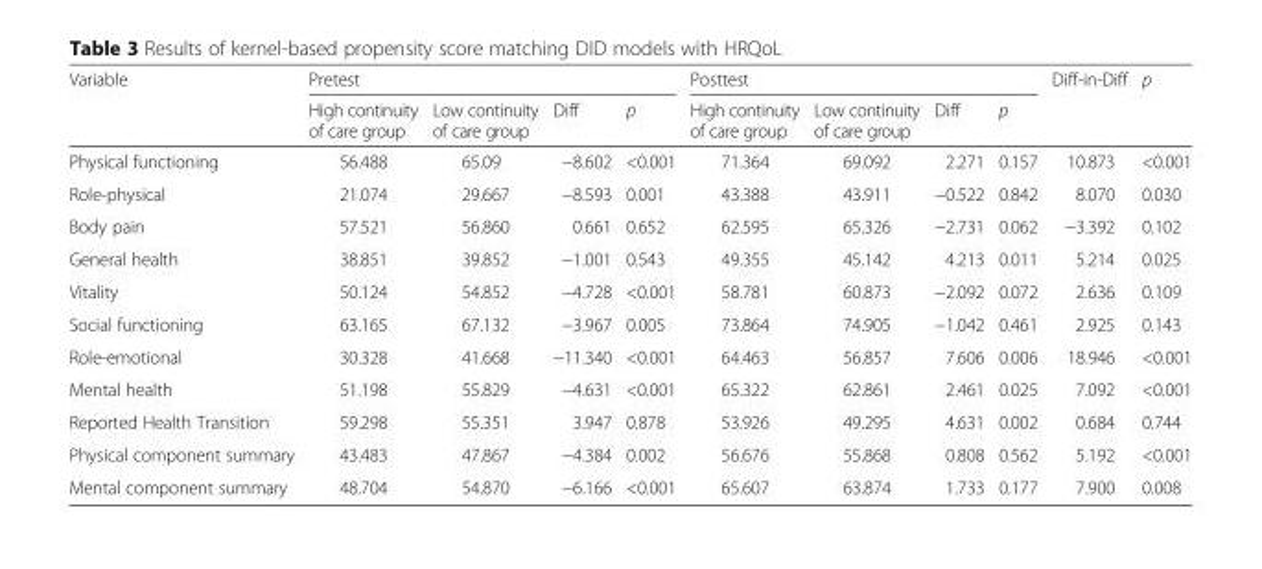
<table><thead><tr><td rowspan="2">Variable</td><td colspan="4">Pretest</td><td colspan="4">Posttest</td><td rowspan="2">Diff-in-Diff</td><td rowspan="2">p</td></tr><tr><td>High continuity of care group</td><td>Low continuity of care group</td><td>Diff</td><td>p</td><td>High continuity of care group</td><td>Low continuity of care group</td><td>Diff</td><td>p</td></tr></thead><tbody><tr><td>Physical functioning</td><td>56.488</td><td>65.09</td><td>−8.602</td><td>&lt;0.001</td><td>71.364</td><td>69.092</td><td>2.271</td><td>0.157</td><td>10.873</td><td>&lt;0.001</td></tr><tr><td>Role-physical</td><td>21.074</td><td>29.667</td><td>−8.593</td><td>0.001</td><td>43.388</td><td>43.911</td><td>−0.522</td><td>0.842</td><td>8.070</td><td>0.030</td></tr><tr><td>Body pain</td><td>57.521</td><td>56.860</td><td>0.661</td><td>0.652</td><td>62.595</td><td>65.326</td><td>−2.731</td><td>0.062</td><td>−3.392</td><td>0.102</td></tr><tr><td>General health</td><td>38.851</td><td>39.852</td><td>−1.001</td><td>0.543</td><td>49.355</td><td>45.142</td><td>4.213</td><td>0.011</td><td>5.214</td><td>0.025</td></tr><tr><td>Vitality</td><td>50.124</td><td>54.852</td><td>−4.728</td><td>&lt;0.001</td><td>58.781</td><td>60.873</td><td>−2.092</td><td>0.072</td><td>2.636</td><td>0.109</td></tr><tr><td>Social functioning</td><td>63.165</td><td>67.132</td><td>−3.967</td><td>0.005</td><td>73.864</td><td>74.905</td><td>−1.042</td><td>0.461</td><td>2.925</td><td>0.143</td></tr><tr><td>Role-emotional</td><td>30.328</td><td>41.668</td><td>−11.340</td><td>&lt;0.001</td><td>64.463</td><td>56.857</td><td>7.606</td><td>0.006</td><td>18.946</td><td>&lt;0.001</td></tr><tr><td>Mental health</td><td>51.198</td><td>55.829</td><td>−4.631</td><td>&lt;0.001</td><td>65.322</td><td>62.861</td><td>2.461</td><td>0.025</td><td>7.092</td><td>&lt;0.001</td></tr><tr><td>Reported Health Transition</td><td>59.298</td><td>55.351</td><td>3.947</td><td>0.878</td><td>53.926</td><td>49.295</td><td>4.631</td><td>0.002</td><td>0.684</td><td>0.744</td></tr><tr><td>Physical component summary</td><td>43.483</td><td>47.867</td><td>−4.384</td><td>0.002</td><td>56.676</td><td>55.868</td><td>0.808</td><td>0.562</td><td>5.192</td><td>&lt;0.001</td></tr><tr><td>Mental component summary</td><td>48.704</td><td>54.870</td><td>−6.166</td><td>&lt;0.001</td><td>65.607</td><td>63.874</td><td>1.733</td><td>0.177</td><td>7.900</td><td>0.008</td></tr></tbody></table>